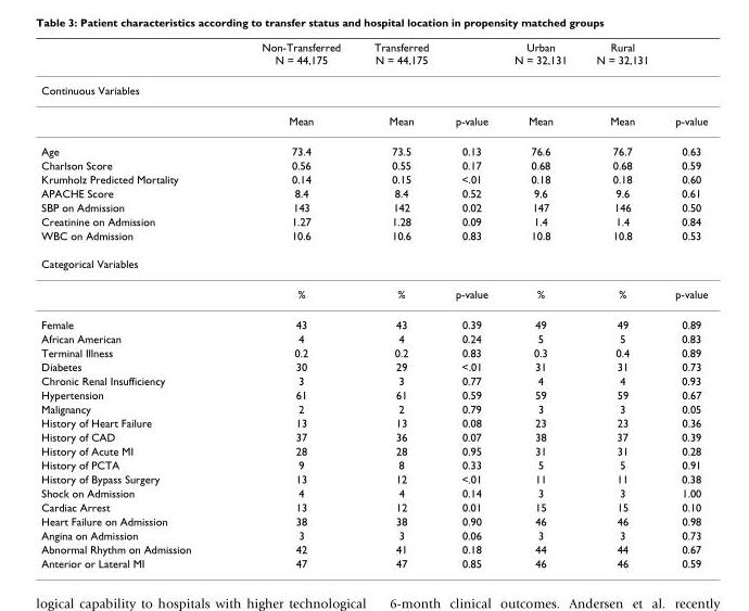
<table><thead><tr><td></td><td>Non-Transferred N = 44,175</td><td>Transferred N = 44,175</td><td></td><td>Urban N = 32,131</td><td>Rural N = 32,131</td><td></td></tr></thead><tbody><tr><td colspan="7">Continuous Variables</td></tr><tr><td></td><td>Mean</td><td>Mean</td><td>p-value</td><td>Mean</td><td>Mean</td><td>p-value</td></tr><tr><td>Age</td><td>73.4</td><td>73.5</td><td>0.13</td><td>76.6</td><td>76.7</td><td>0.63</td></tr><tr><td>Charlson Score</td><td>0.56</td><td>0.55</td><td>0.17</td><td>0.68</td><td>0.68</td><td>0.59</td></tr><tr><td>Krumholz Predicted Mortality</td><td>0.14</td><td>0.15</td><td>&lt;.01</td><td>0.18</td><td>0.18</td><td>0.60</td></tr><tr><td>APACHE Score</td><td>8.4</td><td>8.4</td><td>0.52</td><td>9.6</td><td>9.6</td><td>0.61</td></tr><tr><td>SBP on Admission</td><td>143</td><td>142</td><td>0.02</td><td>147</td><td>146</td><td>0.50</td></tr><tr><td>Creatinine on Admission</td><td>1.27</td><td>1.28</td><td>0.09</td><td>1.4</td><td>1.4</td><td>0.84</td></tr><tr><td>WBC on Admission</td><td>10.6</td><td>10.6</td><td>0.83</td><td>10.8</td><td>10.8</td><td>0.53</td></tr><tr><td colspan="7">Categorical Variables</td></tr><tr><td></td><td>%</td><td>%</td><td>p-value</td><td>%</td><td>%</td><td>p-value</td></tr><tr><td>Female</td><td>43</td><td>43</td><td>0.39</td><td>49</td><td>49</td><td>0.89</td></tr><tr><td>African American</td><td>4</td><td>4</td><td>0.24</td><td>5</td><td>5</td><td>0.83</td></tr><tr><td>Terminal Illness</td><td>0.2</td><td>0.2</td><td>0.83</td><td>0.3</td><td>0.4</td><td>0.89</td></tr><tr><td>Diabetes</td><td>30</td><td>29</td><td>&lt;.01</td><td>31</td><td>31</td><td>0.73</td></tr><tr><td>Chronic Renal Insufficiency</td><td>3</td><td>3</td><td>0.77</td><td>4</td><td>4</td><td>0.93</td></tr><tr><td>Hypertension</td><td>61</td><td>61</td><td>0.59</td><td>59</td><td>59</td><td>0.67</td></tr><tr><td>Malignancy</td><td>2</td><td>2</td><td>0.79</td><td>3</td><td>3</td><td>0.05</td></tr><tr><td>History of Heart Failure</td><td>13</td><td>13</td><td>0.08</td><td>23</td><td>23</td><td>0.36</td></tr><tr><td>History of CAD</td><td>37</td><td>36</td><td>0.07</td><td>38</td><td>37</td><td>0.39</td></tr><tr><td>History of Acute MI</td><td>28</td><td>28</td><td>0.95</td><td>31</td><td>31</td><td>0.28</td></tr><tr><td>History of PCTA</td><td>9</td><td>8</td><td>0.33</td><td>5</td><td>5</td><td>0.91</td></tr><tr><td>History of Bypass Surgery</td><td>13</td><td>12</td><td>&lt;.01</td><td>11</td><td>11</td><td>0.38</td></tr><tr><td>Shock on Admission</td><td>4</td><td>4</td><td>0.14</td><td>3</td><td>3</td><td>1.00</td></tr><tr><td>Cardiac Arrest</td><td>13</td><td>12</td><td>0.01</td><td>15</td><td>15</td><td>0.10</td></tr><tr><td>Heart Failure on Admission</td><td>38</td><td>38</td><td>0.90</td><td>46</td><td>46</td><td>0.98</td></tr><tr><td>Angina on Admission</td><td>3</td><td>3</td><td>0.06</td><td>3</td><td>3</td><td>0.73</td></tr><tr><td>Abnormal Rhythm on Admission</td><td>42</td><td>41</td><td>0.18</td><td>44</td><td>44</td><td>0.67</td></tr><tr><td>Anterior or Lateral MI</td><td>47</td><td>47</td><td>0.85</td><td>46</td><td>46</td><td>0.59</td></tr></tbody></table>